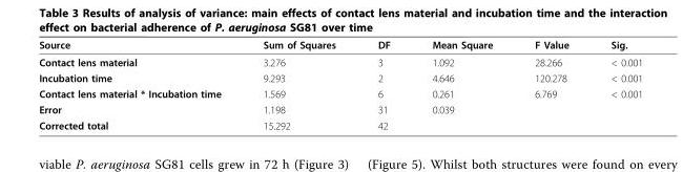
<table><thead><tr><td>Source</td><td>Sum of Squares</td><td>DF</td><td>Mean Square</td><td>F Value</td><td>Sig.</td></tr></thead><tbody><tr><td>Contact lens material</td><td>3.276</td><td>3</td><td>1.092</td><td>28.266</td><td>&lt; 0.001</td></tr><tr><td>Incubation time</td><td>9.293</td><td>2</td><td>4.646</td><td>120.278</td><td>&lt; 0.001</td></tr><tr><td>Contact lens material * Incubation time</td><td>1.569</td><td>6</td><td>0.261</td><td>6.769</td><td>&lt; 0.001</td></tr><tr><td>Error</td><td>1.198</td><td>31</td><td>0.039</td><td></td><td></td></tr><tr><td>Corrected total</td><td>15.292</td><td>42</td><td></td><td></td><td></td></tr></tbody></table>